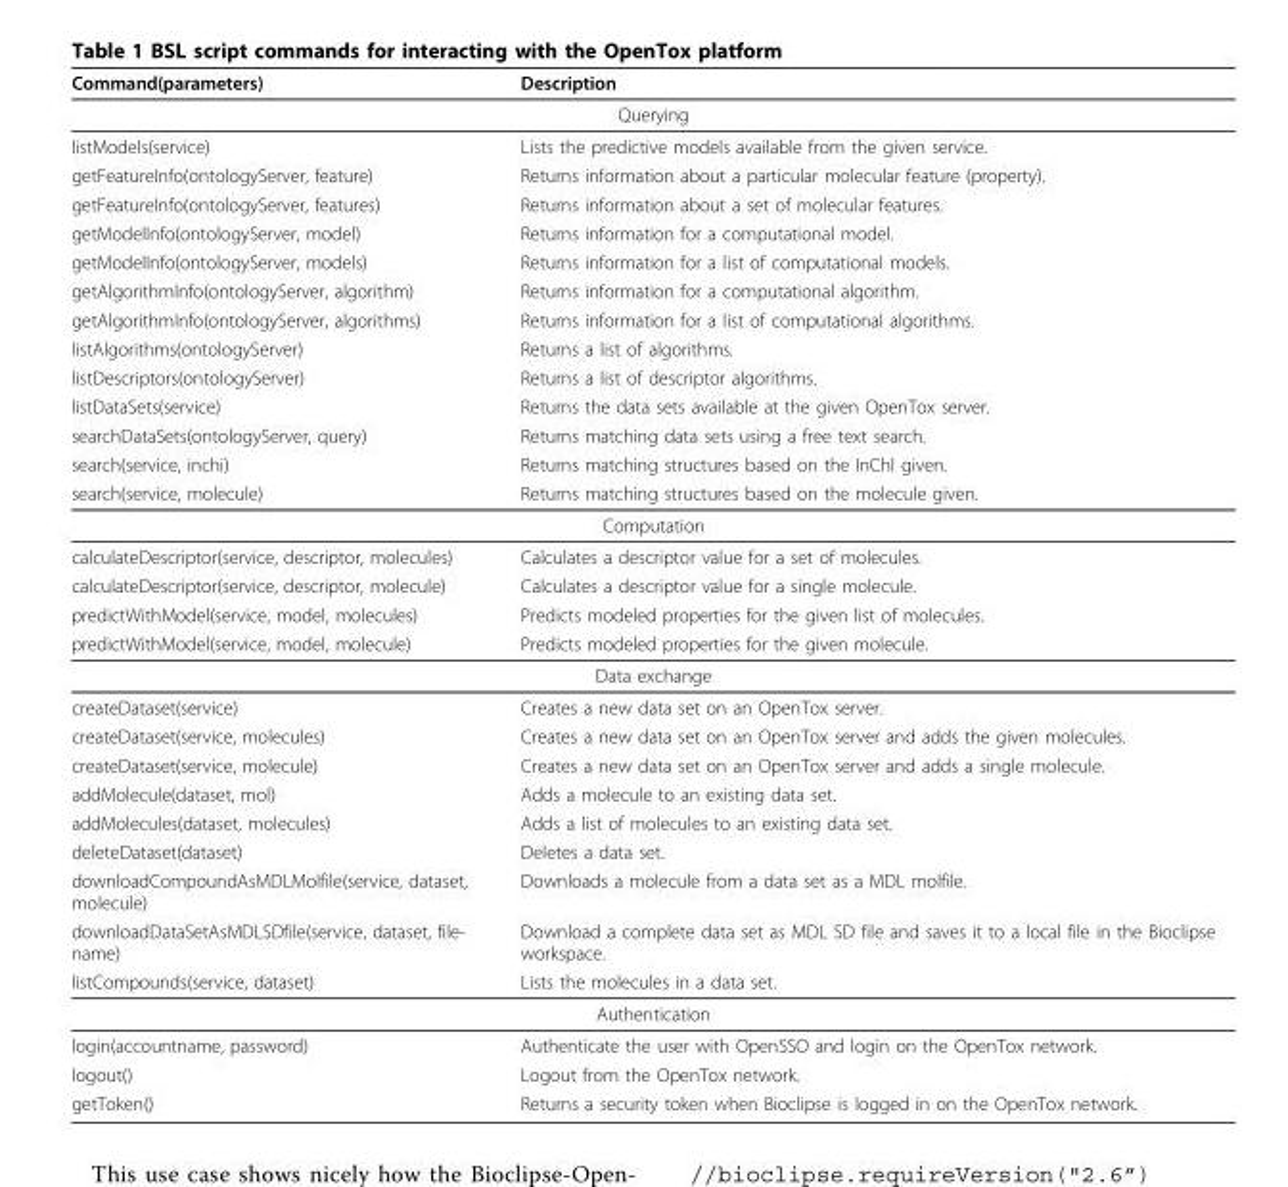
<table><thead><tr><td>Command(parameters)</td><td>Description</td></tr></thead><tbody><tr><td colspan="2">Querying</td></tr><tr><td>listModels(service)</td><td>Lists the predictive models available from the given service.</td></tr><tr><td>getFeatureInfo(ontologyServer, feature)</td><td>Returns information about a particular molecular feature (property).</td></tr><tr><td>getFeatureInfo(ontologyServer, features)</td><td>Returns information about a set of molecular features.</td></tr><tr><td>getModelInfo(ontologyServer, model)</td><td>Returns information for a computational model.</td></tr><tr><td>getModelInfo(ontologyServer, models)</td><td>Returns information for a list of computational models.</td></tr><tr><td>getAlgorithmInfo(ontologyServer, algorithm)</td><td>Returns information for a computational algorithm.</td></tr><tr><td>getAlgorithmInfo(ontologyServer, algorithms)</td><td>Returns information for a list of computational algorithms.</td></tr><tr><td>listAlgorithms(ontologyServer)</td><td>Returns a list of algorithms.</td></tr><tr><td>listDescriptors(ontologyServer)</td><td>Returns a list of descriptor algorithms.</td></tr><tr><td>listDataSets(service)</td><td>Returns the data sets available at the given OpenTox server.</td></tr><tr><td>searchDataSets(ontologyServer, query)</td><td>Returns matching data sets using a free text search.</td></tr><tr><td>search(service, inchi)</td><td>Returns matching structures based on the InChI given.</td></tr><tr><td>search(service, molecule)</td><td>Returns matching structures based on the molecule given.</td></tr><tr><td colspan="2">Computation</td></tr><tr><td>calculateDescriptor(service, descriptor, molecules)</td><td>Calculates a descriptor value for a set of molecules.</td></tr><tr><td>calculateDescriptor(service, descriptor, molecule)</td><td>Calculates a descriptor value for a single molecule.</td></tr><tr><td>predictWithModel(service, model, molecules)</td><td>Predicts modeled properties for the given list of molecules.</td></tr><tr><td>predictWithModel(service, model, molecule)</td><td>Predicts modeled properties for the given molecule.</td></tr><tr><td colspan="2">Data exchange</td></tr><tr><td>createDataset(service)</td><td>Creates a new data set on an OpenTox server.</td></tr><tr><td>createDataset(service, molecules)</td><td>Creates a new data set on an OpenTox server and adds the given molecules.</td></tr><tr><td>createDataset(service, molecule)</td><td>Creates a new data set on an OpenTox server and adds a single molecule.</td></tr><tr><td>addMolecule(dataset, mol)</td><td>Adds a molecule to an existing data set.</td></tr><tr><td>addMolecules(dataset, molecules)</td><td>Adds a list of molecules to an existing data set.</td></tr><tr><td>deleteDataset(dataset)</td><td>Deletes a data set.</td></tr><tr><td>downloadCompoundAsMDLMolfile(service, dataset, molecule)</td><td>Downloads a molecule from a data set as a MDL molfile.</td></tr><tr><td>downloadDataSetAsMDLSDfile(service, dataset, file- name)</td><td>Download a complete data set as MDL SD file and saves it to a local file in the Bioclipse workspace.</td></tr><tr><td>listCompounds(service, dataset)</td><td>Lists the molecules in a data set.</td></tr><tr><td colspan="2">Authentication</td></tr><tr><td>login(accountname, password)</td><td>Authenticate the user with OpenSSO and login on the OpenTox network.</td></tr><tr><td>logout()</td><td>Logout from the OpenTox network.</td></tr><tr><td>getToken()</td><td>Returns a security token when Bioclipse is logged in on the OpenTox network.</td></tr></tbody></table>